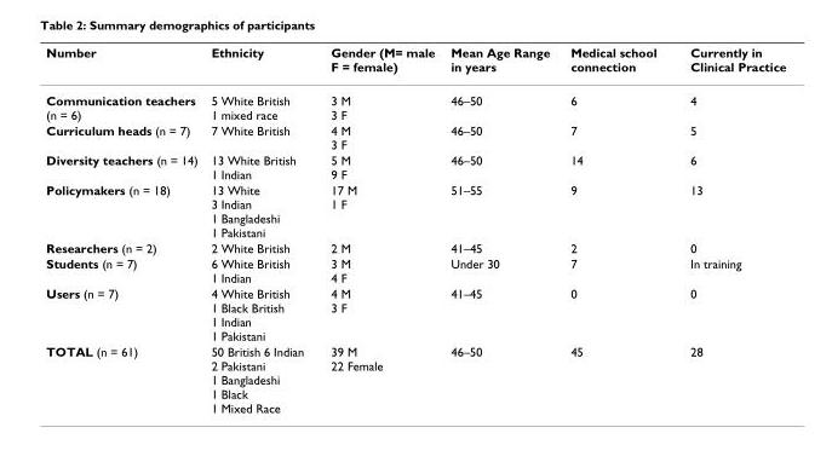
<table><thead><tr><td>Number</td><td>Ethnicity</td><td>Gender (M= male F = female)</td><td>Mean Age Range in years</td><td>Medical school connection</td><td>Currently in Clinical Practice</td></tr></thead><tbody><tr><td>Communication teachers (n = 6)</td><td>5 White British 1 mixed race</td><td>3 M 3 F</td><td>46–50</td><td>6</td><td>4</td></tr><tr><td>Curriculum heads (n = 7)</td><td>7 White British</td><td>4 M 3 F</td><td>46–50</td><td>7</td><td>5</td></tr><tr><td>Diversity teachers (n = 14)</td><td>13 White British 1 Indian</td><td>5 M 9 F</td><td>46–50</td><td>14</td><td>6</td></tr><tr><td>Policymakers (n = 18)</td><td>13 White 3 Indian 1 Bangladeshi 1 Pakistani</td><td>17 M 1 F</td><td>51–55</td><td>9</td><td>13</td></tr><tr><td>Researchers (n = 2)</td><td>2 White British</td><td>2 M</td><td>41–45</td><td>2</td><td>0</td></tr><tr><td>Students (n = 7)</td><td>6 White British 1 Indian</td><td>3 M 4 F</td><td>Under 30</td><td>7</td><td>In training</td></tr><tr><td>Users (n = 7)</td><td>4 White British 1 Black British 1 Indian 1 Pakistani</td><td>4 M 3 F</td><td>41–45</td><td>0</td><td>0</td></tr><tr><td>TOTAL (n = 61)</td><td>50 British 6 Indian 2 Pakistani 1 Bangladeshi 1 Black 1 Mixed Race</td><td>39 M 22 Female</td><td>46–50</td><td>45</td><td>28</td></tr></tbody></table>